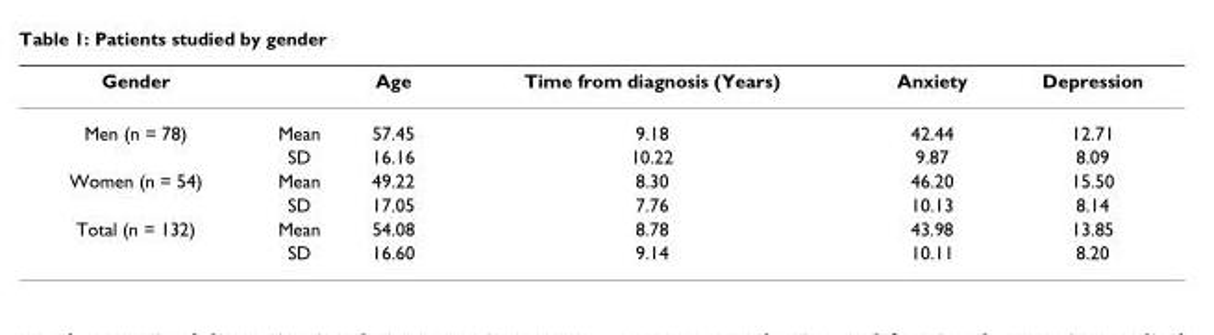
<table><thead><tr><td>Gender</td><td></td><td>Age</td><td>Time from diagnosis (Years)</td><td>Anxiety</td><td>Depression</td></tr></thead><tbody><tr><td rowspan="2">Men (n = 78)</td><td>Mean</td><td>57.45</td><td>9.18</td><td>42.44</td><td>12.71</td></tr><tr><td>SD</td><td>16.16</td><td>10.22</td><td>9.87</td><td>8.09</td></tr><tr><td rowspan="2">Women (n = 54)</td><td>Mean</td><td>49.22</td><td>8.30</td><td>46.20</td><td>15.50</td></tr><tr><td>SD</td><td>17.05</td><td>7.76</td><td>10.13</td><td>8.14</td></tr><tr><td rowspan="2">Total (n = 132)</td><td>Mean</td><td>54.08</td><td>8.78</td><td>43.98</td><td>13.85</td></tr><tr><td>SD</td><td>16.60</td><td>9.14</td><td>10.11</td><td>8.20</td></tr></tbody></table>